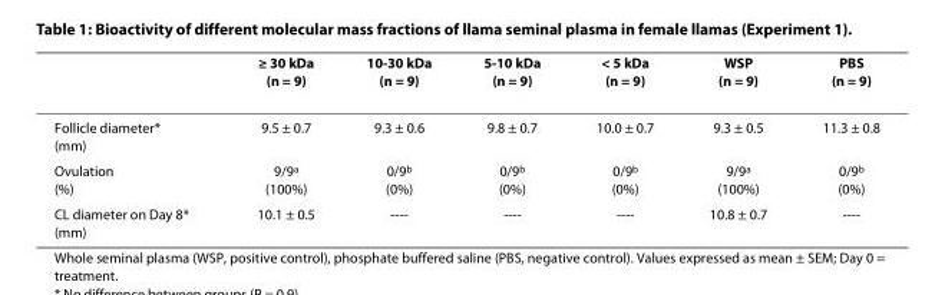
<table><thead><tr><td></td><td>≥ 30 kDa (n = 9)</td><td>10-30 kDa (n = 9)</td><td>5-10 kDa (n = 9)</td><td>&lt; 5 kDa (n = 9)</td><td>WSP (n = 9)</td><td>PBS (n = 9)</td></tr></thead><tbody><tr><td>Follicle diameter* (mm)</td><td>9.5 ± 0.7</td><td>9.3 ± 0.6</td><td>9.8 ± 0.7</td><td>10.0 ± 0.7</td><td>9.3 ± 0.5</td><td>11.3 ± 0.8</td></tr><tr><td>Ovulation (%)</td><td>9/9<sup>a</sup> (100%)</td><td>0/9<sup>b</sup> (0%)</td><td>0/9<sup>b</sup> (0%)</td><td>0/9<sup>b</sup> (0%)</td><td>9/9<sup>a</sup> (100%)</td><td>0/9<sup>b</sup> (0%)</td></tr><tr><td>CL diameter on Day 8* (mm)</td><td>10.1 ± 0.5</td><td>----</td><td>----</td><td>----</td><td>10.8 ± 0.7</td><td>----</td></tr></tbody></table>